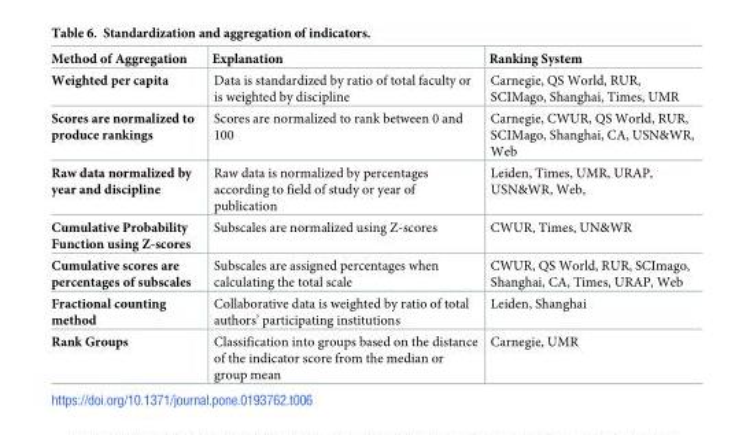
<table><thead><tr><td>Method of Aggregation</td><td>Explanation</td><td>Ranking System</td></tr></thead><tbody><tr><td>Weighted per capita</td><td>Data is standardized by ratio of total faculty or is weighted by discipline</td><td>Carnegie, QS World, RUR, SCIMago, Shanghai, Times, UMR</td></tr><tr><td>Scores are normalized to produce rankings</td><td>Scores are normalized to rank between 0 and 100</td><td>Carnegie, CWUR, QS World, RUR, SCIMago, Shanghai, CA, USN&amp;WR, Web</td></tr><tr><td>Raw data normalized by year and discipline</td><td>Raw data is normalized by percentages according to field of study or year of publication</td><td>Leiden, Times, UMR, URAP, USN&amp;WR, Web,</td></tr><tr><td>Cumulative Probability Function using Z-scores</td><td>Subscales are normalized using Z-scores</td><td>CWUR, Times, UN&amp;WR</td></tr><tr><td>Cumulative scores are percentages of subscales</td><td>Subscales are assigned percentages when calculating the total scale</td><td>CWUR, QS World, RUR, SCImago, Shanghai, CA, Times, URAP, Web</td></tr><tr><td>Fractional counting method</td><td>Collaborative data is weighted by ratio of total authors’ participating institutions</td><td>Leiden, Shanghai</td></tr><tr><td>Rank Groups</td><td>Classification into groups based on the distance of the indicator score from the median or group mean</td><td>Carnegie, UMR</td></tr></tbody></table>